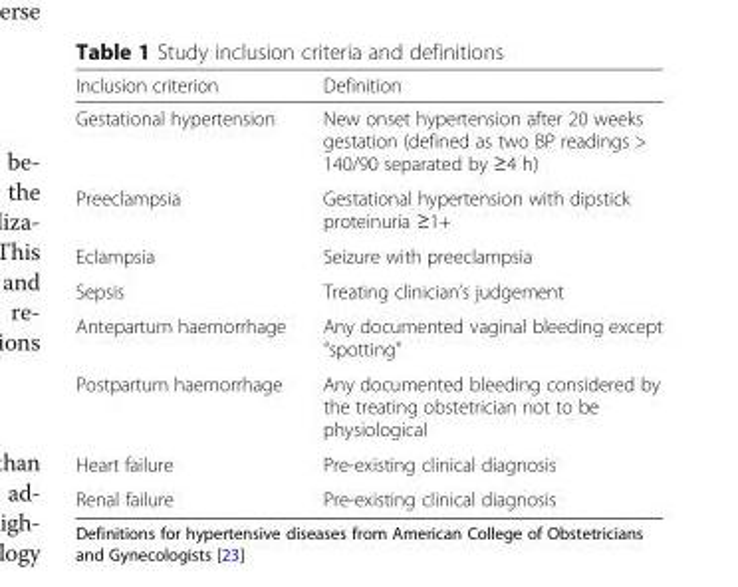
<table><thead><tr><td>Inclusion criterion</td><td>Definition</td></tr></thead><tbody><tr><td>Gestational hypertension</td><td>New onset hypertension after 20 weeks gestation (defined as two BP readings &gt; 140/90 separated by ≥4 h)</td></tr><tr><td>Preeclampsia</td><td>Gestational hypertension with dipstick proteinuria ≥1+</td></tr><tr><td>Eclampsia</td><td>Seizure with preeclampsia</td></tr><tr><td>Sepsis</td><td>Treating clinician’s judgement</td></tr><tr><td>Antepartum haemorrhage</td><td>Any documented vaginal bleeding except “spotting”</td></tr><tr><td>Postpartum haemorrhage</td><td>Any documented bleeding considered by the treating obstetrician not to be physiological</td></tr><tr><td>Heart failure</td><td>Pre-existing clinical diagnosis</td></tr><tr><td>Renal failure</td><td>Pre-existing clinical diagnosis</td></tr></tbody></table>